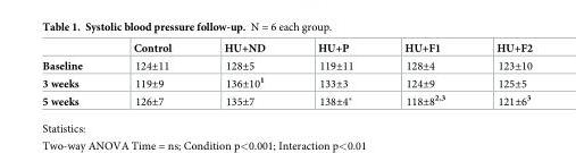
<table><thead><tr><td></td><td>Control</td><td>HU+ND</td><td>HU+P</td><td>HU+F1</td><td>HU+F2</td></tr></thead><tbody><tr><td>Baseline</td><td>124±11</td><td>128±5</td><td>119±11</td><td>128±4</td><td>123±10</td></tr><tr><td>3 weeks</td><td>119±9</td><td>136±10<sup>1</sup></td><td>133±3</td><td>124±9</td><td>125±5</td></tr><tr><td>5 weeks</td><td>126±7</td><td>135±7</td><td>138±4*</td><td>118±8<sup>2,3</sup></td><td>121±6<sup>3</sup></td></tr></tbody></table>